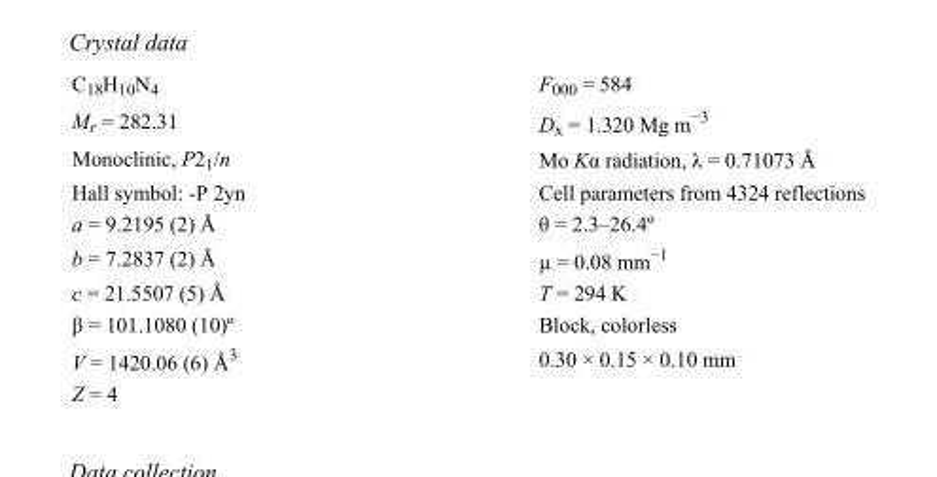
<table><tbody><tr><td>C<sub>18</sub>H<sub>10</sub>N<sub>4</sub></td><td>F000 = 584</td></tr><tr><td>M<sub>r</sub> = 282.31</td><td>D<sub>x</sub> = 1.320 Mg m<sup>−3</sup></td></tr><tr><td>Monoclinic, P2<sub>1</sub>/n</td><td>Mo Kα radiation, λ = 0.71073 Å</td></tr><tr><td>Hall symbol: -P 2yn</td><td>Cell parameters from 4324 reflections</td></tr><tr><td>a = 9.2195 (2) Å</td><td>θ = 2.3–26.4º</td></tr><tr><td>b = 7.2837 (2) Å</td><td>µ = 0.08 mm<sup>−1</sup></td></tr><tr><td>c = 21.5507 (5) Å</td><td>T = 294 K</td></tr><tr><td>β = 101.1080 (10)º</td><td>Block, colorless</td></tr><tr><td>V = 1420.06 (6) Å<sup>3</sup></td><td>0.30 × 0.15 × 0.10 mm</td></tr><tr><td>Z = 4</td><td></td></tr></tbody></table>